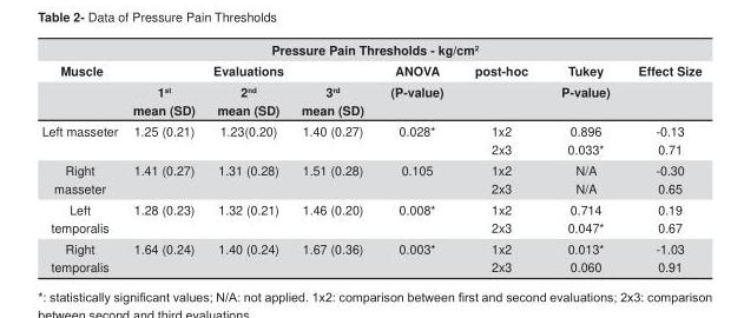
<table><thead><tr><td colspan="8">Pressure Pain Thresholds - kg/cm<sup>2</sup></td></tr><tr><td rowspan="2">Muscle</td><td colspan="3">Evaluations</td><td rowspan="2">ANOVA (P-value)</td><td rowspan="2">post-hoc</td><td rowspan="2">Tukey P-value)</td><td rowspan="2">Effect Size</td></tr><tr><td>1<sup>st</sup> mean (SD)</td><td>2<sup>nd</sup> mean (SD)</td><td>3<sup>rd</sup> mean (SD)</td></tr></thead><tbody><tr><td>Left masseter</td><td>1.25 (0.21)</td><td>1.23(0.20)</td><td>1.40 (0.27)</td><td>0.028*</td><td>1x2 2x3</td><td>0.896 0.033*</td><td>-0.13 0.71</td></tr><tr><td>Right masseter</td><td>1.41 (0.27)</td><td>1.31 (0.28)</td><td>1.51 (0.28)</td><td>0.105</td><td>1x2 2x3</td><td>N/A N/A</td><td>-0.30 0.65</td></tr><tr><td>Left temporalis</td><td>1.28 (0.23)</td><td>1.32 (0.21)</td><td>1.46 (0.20)</td><td>0.008*</td><td>1x2 2x3</td><td>0.714 0.047*</td><td>0.19 0.67</td></tr><tr><td>Right temporalis</td><td>1.64 (0.24)</td><td>1.40 (0.24)</td><td>1.67 (0.36)</td><td>0.003*</td><td>1x2 2x3</td><td>0.013* 0.060</td><td>-1.03 0.91</td></tr></tbody></table>